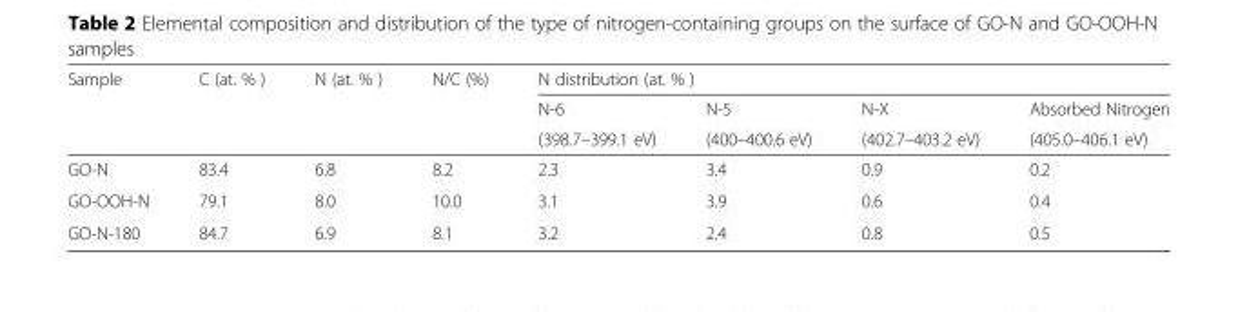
<table><thead><tr><td rowspan="3">Sample</td><td rowspan="3">C (at. % )</td><td rowspan="3">N (at. % )</td><td rowspan="3">N/C (%)</td><td colspan="4">N distribution (at. % )</td></tr><tr><td rowspan="2">N-6 (398.7–399.1 eV)</td><td rowspan="2">N-5 (400–400.6 eV)</td><td rowspan="2">N-X (402.7–403.2 eV)</td><td rowspan="2">Absorbed Nitrogen (405.0–406.1 eV)</td></tr><tr></tr></thead><tbody><tr><td>GO-N</td><td>83.4</td><td>6.8</td><td>8.2</td><td>2.3</td><td>3.4</td><td>0.9</td><td>0.2</td></tr><tr><td>GO-OOH-N</td><td>79.1</td><td>8.0</td><td>10.0</td><td>3.1</td><td>3.9</td><td>0.6</td><td>0.4</td></tr><tr><td>GO-N-180</td><td>84.7</td><td>6.9</td><td>8.1</td><td>3.2</td><td>2.4</td><td>0.8</td><td>0.5</td></tr></tbody></table>